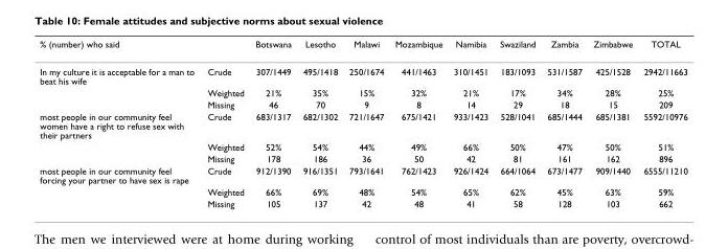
<table><thead><tr><td>% (number) who said</td><td></td><td>Botswana</td><td>Lesotho</td><td>Malawi</td><td>Mozambique</td><td>Namibia</td><td>Swaziland</td><td>Zambia</td><td>Zimbabwe</td><td>TOTAL</td></tr></thead><tbody><tr><td rowspan="3">In my culture it is acceptable for a man to beat his wife</td><td>Crude</td><td>307/1449</td><td>495/1418</td><td>250/1674</td><td>441/1463</td><td>310/1451</td><td>183/1093</td><td>531/1587</td><td>425/1528</td><td>2942/11663</td></tr><tr><td>Weighted</td><td>21%</td><td>35%</td><td>15%</td><td>32%</td><td>21%</td><td>17%</td><td>34%</td><td>28%</td><td>25%</td></tr><tr><td>Missing</td><td>46</td><td>70</td><td>9</td><td>8</td><td>14</td><td>29</td><td>18</td><td>15</td><td>209</td></tr><tr><td rowspan="3">most people in our community feel women have a right to refuse sex with their partners</td><td>Crude</td><td>683/1317</td><td>682/1302</td><td>721/1647</td><td>675/1421</td><td>933/1423</td><td>528/1041</td><td>685/1444</td><td>685/1381</td><td>5592/10976</td></tr><tr><td>Weighted</td><td>52%</td><td>54%</td><td>44%</td><td>49%</td><td>66%</td><td>50%</td><td>47%</td><td>50%</td><td>51%</td></tr><tr><td>Missing</td><td>178</td><td>186</td><td>36</td><td>50</td><td>42</td><td>81</td><td>161</td><td>162</td><td>896</td></tr><tr><td rowspan="3">most people in our community feel forcing your partner to have sex is rape</td><td>Crude</td><td>912/1390</td><td>916/1351</td><td>793/1641</td><td>762/1423</td><td>926/1424</td><td>664/1064</td><td>673/1477</td><td>909/1440</td><td>6555/11210</td></tr><tr><td>Weighted</td><td>66%</td><td>69%</td><td>48%</td><td>54%</td><td>65%</td><td>62%</td><td>45%</td><td>63%</td><td>59%</td></tr><tr><td>Missing</td><td>105</td><td>137</td><td>42</td><td>48</td><td>41</td><td>58</td><td>128</td><td>103</td><td>662</td></tr></tbody></table>